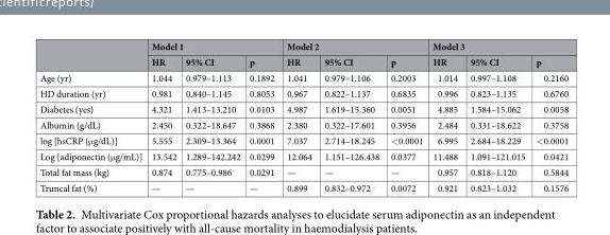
<table><thead><tr><td rowspan="2"></td><td colspan="3">Model 1</td><td colspan="3">Model 2</td><td colspan="3">Model 3</td></tr><tr><td>HR</td><td>95% CI</td><td>p</td><td>HR</td><td>95% CI</td><td>p</td><td>HR</td><td>95% CI</td><td>p</td></tr></thead><tbody><tr><td>Age (yr)</td><td>1.044</td><td>0.979–1.113</td><td>0.1892</td><td>1.041</td><td>0.979–1.106</td><td>0.2003</td><td>1.014</td><td>0.997–1.108</td><td>0.2160</td></tr><tr><td>HD duration (yr)</td><td>0.981</td><td>0.840–1.145</td><td>0.8053</td><td>0.967</td><td>0.822–1.137</td><td>0.6835</td><td>0.996</td><td>0.823–1.135</td><td>0.6760</td></tr><tr><td>Diabetes (yes)</td><td>4.321</td><td>1.413–13.210</td><td>0.0103</td><td>4.987</td><td>1.619–15.360</td><td>0.0051</td><td>4.885</td><td>1.584–15.062</td><td>0.0058</td></tr><tr><td>Albumin (g/dL)</td><td>2.450</td><td>0.322–18.647</td><td>0.3868</td><td>2.380</td><td>0.322–17.601</td><td>0.3956</td><td>2.484</td><td>0.331–18.622</td><td>0.3758</td></tr><tr><td>log [hsCRP (μg/dL)]</td><td>5.555</td><td>2.309–13.364</td><td>0.0001</td><td>7.037</td><td>2.714–18.245</td><td>&lt;0.0001</td><td>6.995</td><td>2.684–18.229</td><td>&lt;0.0001</td></tr><tr><td>Log [adiponectin (μg/mL)]</td><td>13.542</td><td>1.289–142.242</td><td>0.0299</td><td>12.064</td><td>1.151–126.438</td><td>0.0377</td><td>11.488</td><td>1.091–121.015</td><td>0.0421</td></tr><tr><td>Total fat mass (kg)</td><td>0.874</td><td>0.775–0.986</td><td>0.0291</td><td>—</td><td>—</td><td>—</td><td>0.957</td><td>0.818–1.120</td><td>0.5844</td></tr><tr><td>Truncal fat (%)</td><td>—</td><td>—</td><td>—</td><td>0.899</td><td>0.832–0.972</td><td>0.0072</td><td>0.921</td><td>0.823–1.032</td><td>0.1576</td></tr></tbody></table>